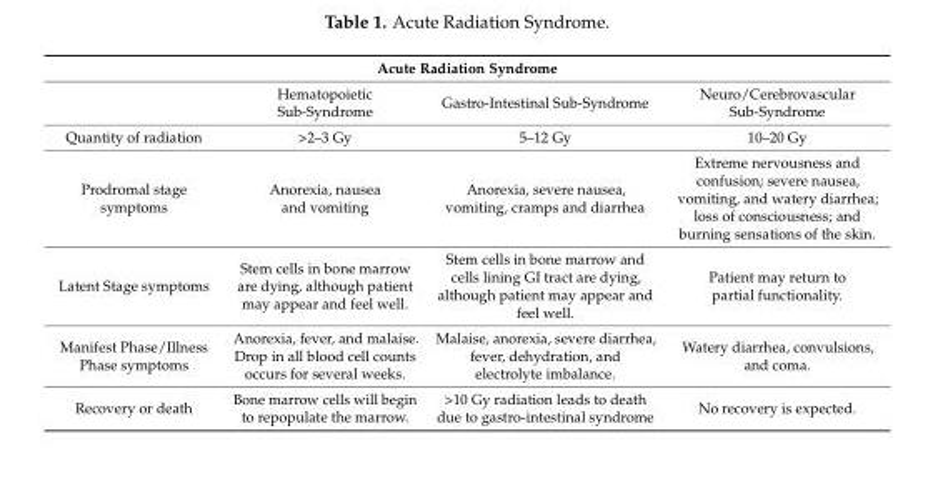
<table><thead><tr><td colspan="4">Acute Radiation Syndrome</td></tr><tr><td></td><td>Hematopoietic Sub-Syndrome</td><td>Gastro-Intestinal Sub-Syndrome</td><td>Neuro/Cerebrovascular Sub-Syndrome</td></tr></thead><tbody><tr><td>Quantity of radiation</td><td>&gt;2–3 Gy</td><td>5–12 Gy</td><td>10–20 Gy</td></tr><tr><td>Prodromal stage symptoms</td><td>Anorexia, nausea and vomiting</td><td>Anorexia, severe nausea, vomiting, cramps and diarrhea</td><td>Extreme nervousness and confusion; severe nausea, vomiting, and watery diarrhea; loss of consciousness; and burning sensations of the skin.</td></tr><tr><td>Latent Stage symptoms</td><td>Stem cells in bone marrow are dying, although patient may appear and feel well.</td><td>Stem cells in bone marrow and cells lining GI tract are dying, although patient may appear and feel well.</td><td>Patient may return to partial functionality.</td></tr><tr><td>Manifest Phase/Illness Phase symptoms</td><td>Anorexia, fever, and malaise. Drop in all blood cell counts occurs for several weeks.</td><td>Malaise, anorexia, severe diarrhea, fever, dehydration, and electrolyte imbalance.</td><td>Watery diarrhea, convulsions, and coma.</td></tr><tr><td>Recovery or death</td><td>Bone marrow cells will begin to repopulate the marrow.</td><td>&gt;10 Gy radiation leads to death due to gastro-intestinal syndrome</td><td>No recovery is expected.</td></tr></tbody></table>